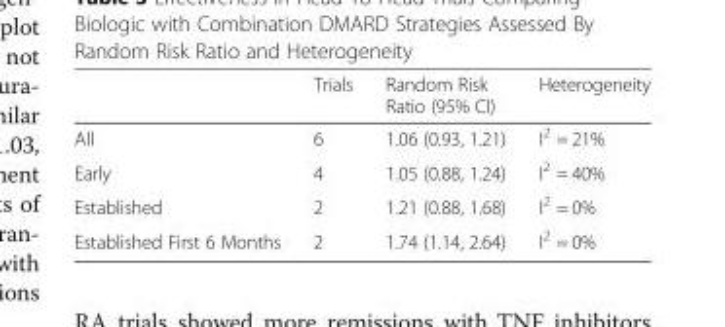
<table><thead><tr><td></td><td>Trials</td><td>Random Risk Ratio (95% CI)</td><td>Heterogeneity</td></tr></thead><tbody><tr><td>All</td><td>6</td><td>1.06 (0.93, 1.21)</td><td>I<sup>2</sup> = 21%</td></tr><tr><td>Early</td><td>4</td><td>1.05 (0.88, 1.24)</td><td>I<sup>2</sup> = 40%</td></tr><tr><td>Established</td><td>2</td><td>1.21 (0.88, 1.68)</td><td>I<sup>2</sup> = 0%</td></tr><tr><td>Established First 6 Months</td><td>2</td><td>1.74 (1.14, 2.64)</td><td>I<sup>2</sup> = 0%</td></tr></tbody></table>